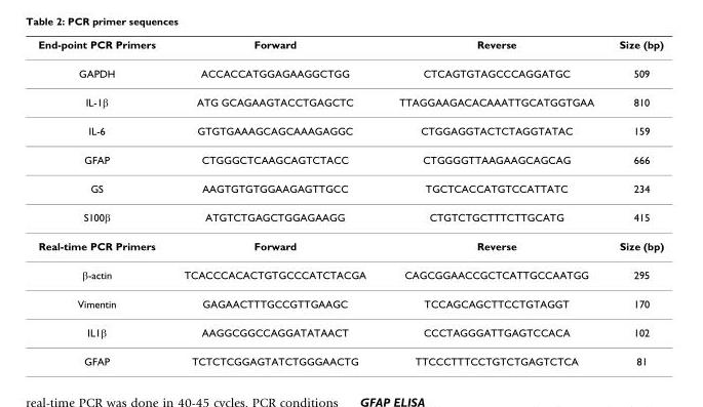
<table><thead><tr><td>End-point PCR Primers</td><td>Forward</td><td>Reverse</td><td>Size (bp)</td></tr></thead><tbody><tr><td>GAPDH</td><td>ACCACCATGGAGAAGGCTGG</td><td>CTCAGTGTAGCCCAGGATGC</td><td>509</td></tr><tr><td>IL-1β</td><td>ATG GCAGAAGTACCTGAGCTC</td><td>TTAGGAAGACACAAATTGCATGGTGAA</td><td>810</td></tr><tr><td>IL-6</td><td>GTGTGAAAGCAGCAAAGAGGC</td><td>CTGGAGGTACTCTAGGTATAC</td><td>159</td></tr><tr><td>GFAP</td><td>CTGGGCTCAAGCAGTCTACC</td><td>CTGGGGTTAAGAAGCAGCAG</td><td>666</td></tr><tr><td>GS</td><td>AAGTGTGTGGAAGAGTTGCC</td><td>TGCTCACCATGTCCATTATC</td><td>234</td></tr><tr><td>S100β</td><td>ATGTCTGAGCTGGAGAAGG</td><td>CTGTCTGCTTTCTTGCATG</td><td>415</td></tr><tr><td>Real-time PCR Primers</td><td>Forward</td><td>Reverse</td><td>Size (bp)</td></tr><tr><td>β-actin</td><td>TCACCCACACTGTGCCCATCTACGA</td><td>CAGCGGAACCGCTCATTGCCAATGG</td><td>295</td></tr><tr><td>Vimentin</td><td>GAGAACTTTGCCGTTGAAGC</td><td>TCCAGCAGCTTCCTGTAGGT</td><td>170</td></tr><tr><td>IL1β</td><td>AAGGCGGCCAGGATATAACT</td><td>CCCTAGGGATTGAGTCCACA</td><td>102</td></tr><tr><td>GFAP</td><td>TCTCTCGGAGTATCTGGGAACTG</td><td>TTCCCTTTCCTGTCTGAGTCTCA</td><td>81</td></tr></tbody></table>